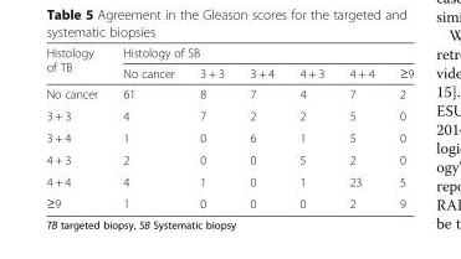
<table><thead><tr><td rowspan="2">Histology of TB</td><td colspan="6">Histology of SB</td></tr><tr><td>No cancer</td><td>3 + 3</td><td>3 + 4</td><td>4 + 3</td><td>4 + 4</td><td>≥9</td></tr></thead><tbody><tr><td>No cancer</td><td>61</td><td>8</td><td>7</td><td>4</td><td>7</td><td>2</td></tr><tr><td>3 + 3</td><td>4</td><td>7</td><td>2</td><td>2</td><td>5</td><td>0</td></tr><tr><td>3 + 4</td><td>1</td><td>0</td><td>6</td><td>1</td><td>5</td><td>0</td></tr><tr><td>4 + 3</td><td>2</td><td>0</td><td>0</td><td>5</td><td>2</td><td>0</td></tr><tr><td>4 + 4</td><td>4</td><td>1</td><td>0</td><td>1</td><td>23</td><td>5</td></tr><tr><td>≥9</td><td>1</td><td>0</td><td>0</td><td>0</td><td>2</td><td>9</td></tr></tbody></table>